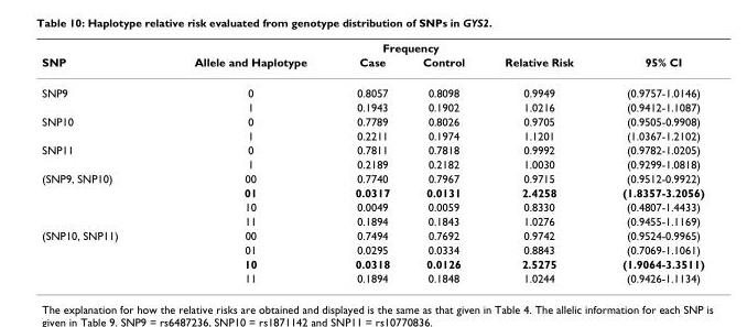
<table><thead><tr><td rowspan="2">SNP</td><td rowspan="2">Allele and Haplotype</td><td colspan="2">Frequency</td><td rowspan="2">Relative Risk</td><td rowspan="2">95% CI</td></tr><tr><td>Case</td><td>Control</td></tr></thead><tbody><tr><td rowspan="2">SNP9</td><td>0</td><td>0.8057</td><td>0.8098</td><td>0.9949</td><td>(0.9757-1.0146)</td></tr><tr><td>1</td><td>0.1943</td><td>0.1902</td><td>1.0216</td><td>(0.9412-1.1087)</td></tr><tr><td rowspan="2">SNP10</td><td>0</td><td>0.7789</td><td>0.8026</td><td>0.9705</td><td>(0.9505-0.9908)</td></tr><tr><td>1</td><td>0.2211</td><td>0.1974</td><td>1.1201</td><td>(1.0367-1.2102)</td></tr><tr><td rowspan="2">SNP11</td><td>0</td><td>0.7811</td><td>0.7818</td><td>0.9992</td><td>(0.9782-1.0205)</td></tr><tr><td>1</td><td>0.2189</td><td>0.2182</td><td>1.0030</td><td>(0.9299-1.0818)</td></tr><tr><td rowspan="4">(SNP9, SNP10)</td><td>00</td><td>0.7740</td><td>0.7967</td><td>0.9715</td><td>(0.9512-0.9922)</td></tr><tr><td>01</td><td>0.0317</td><td>0.0131</td><td>2.4258</td><td>(1.8357-3.2056)</td></tr><tr><td>10</td><td>0.0049</td><td>0.0059</td><td>0.8330</td><td>(0.4807-1.4433)</td></tr><tr><td>11</td><td>0.1894</td><td>0.1843</td><td>1.0276</td><td>(0.9455-1.1169)</td></tr><tr><td rowspan="4">(SNP10, SNP11)</td><td>00</td><td>0.7494</td><td>0.7692</td><td>0.9742</td><td>(0.9524-0.9965)</td></tr><tr><td>01</td><td>0.0295</td><td>0.0334</td><td>0.8843</td><td>(0.7069-1.1061)</td></tr><tr><td>10</td><td>0.0318</td><td>0.0126</td><td>2.5275</td><td>(1.9064-3.3511)</td></tr><tr><td>11</td><td>0.1894</td><td>0.1848</td><td>1.0244</td><td>(0.9426-1.1134)</td></tr></tbody></table>